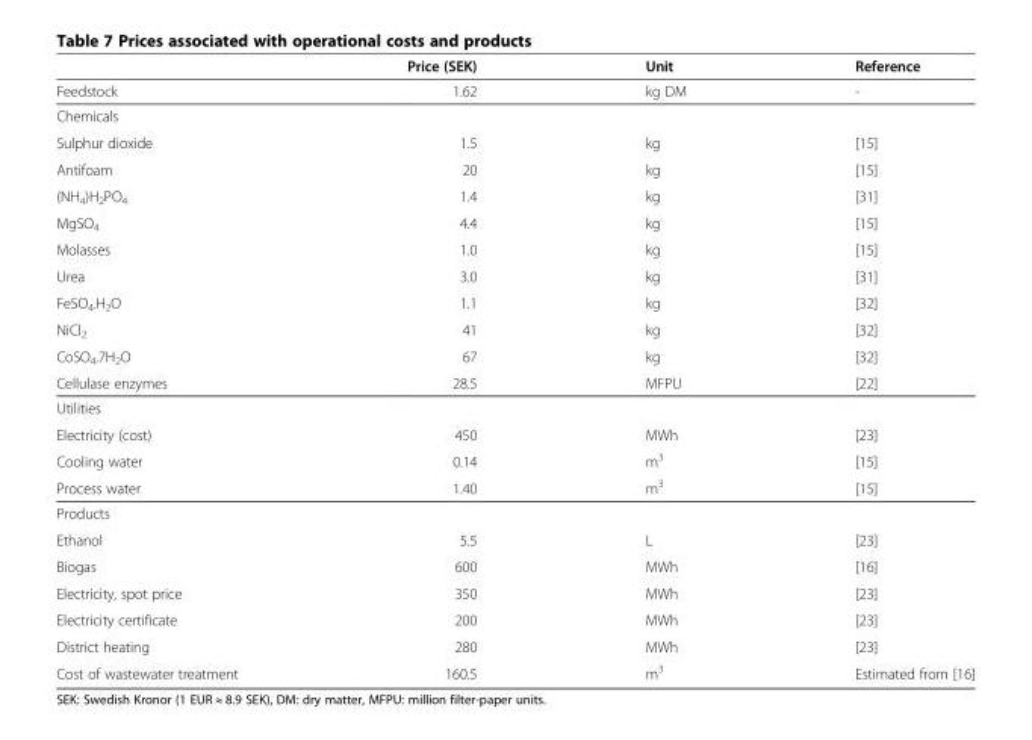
<table><thead><tr><td></td><td>Price (SEK)</td><td>Unit</td><td>Reference</td></tr></thead><tbody><tr><td>Feedstock</td><td>1.62</td><td>kg DM</td><td>-</td></tr><tr><td colspan="4">Chemicals</td></tr><tr><td>Sulphur dioxide</td><td>1.5</td><td>kg</td><td>[15]</td></tr><tr><td>Antifoam</td><td>20</td><td>kg</td><td>[15]</td></tr><tr><td>(NH<sub>4</sub>)H<sub>2</sub>PO<sub>4</sub></td><td>1.4</td><td>kg</td><td>[31]</td></tr><tr><td>MgSO<sub>4</sub></td><td>4.4</td><td>kg</td><td>[15]</td></tr><tr><td>Molasses</td><td>1.0</td><td>kg</td><td>[15]</td></tr><tr><td>Urea</td><td>3.0</td><td>kg</td><td>[31]</td></tr><tr><td>FeSO<sub>4</sub>.H<sub>2</sub>O</td><td>1.1</td><td>kg</td><td>[32]</td></tr><tr><td>NiCl<sub>2</sub></td><td>41</td><td>kg</td><td>[32]</td></tr><tr><td>CoSO<sub>4</sub>.7H<sub>2</sub>O</td><td>67</td><td>kg</td><td>[32]</td></tr><tr><td>Cellulase enzymes</td><td>28.5</td><td>MFPU</td><td>[22]</td></tr><tr><td colspan="4">Utilities</td></tr><tr><td>Electricity (cost)</td><td>450</td><td>MWh</td><td>[23]</td></tr><tr><td>Cooling water</td><td>0.14</td><td>m<sup>3</sup></td><td>[15]</td></tr><tr><td>Process water</td><td>1.40</td><td>m<sup>3</sup></td><td>[15]</td></tr><tr><td colspan="4">Products</td></tr><tr><td>Ethanol</td><td>5.5</td><td>L</td><td>[23]</td></tr><tr><td>Biogas</td><td>600</td><td>MWh</td><td>[16]</td></tr><tr><td>Electricity, spot price</td><td>350</td><td>MWh</td><td>[23]</td></tr><tr><td>Electricity certificate</td><td>200</td><td>MWh</td><td>[23]</td></tr><tr><td>District heating</td><td>280</td><td>MWh</td><td>[23]</td></tr><tr><td>Cost of wastewater treatment</td><td>160.5</td><td>m<sup>3</sup></td><td>Estimated from [16]</td></tr></tbody></table>